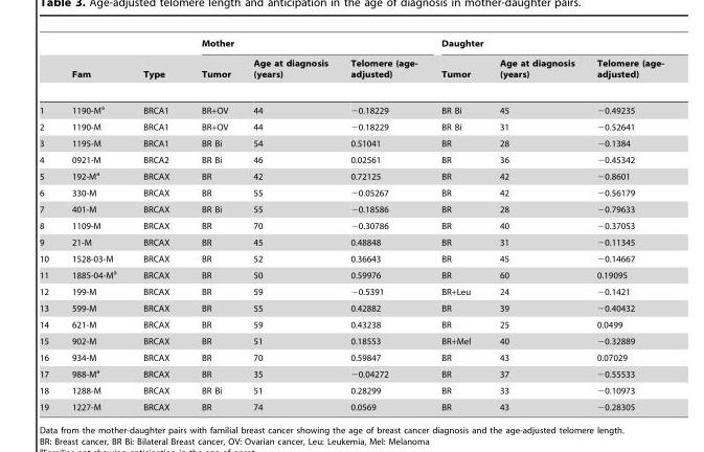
<table><thead><tr><td rowspan="2"></td><td rowspan="2">Fam</td><td rowspan="2">Type</td><td colspan="3">Mother</td><td colspan="3">Daughter</td></tr><tr><td>Tumor</td><td>Age at diagnosis (years)</td><td>Telomere (age- adjusted)</td><td>Tumor</td><td>Age at diagnosis (years)</td><td>Telomere (age- adjusted)</td></tr></thead><tbody><tr><td>1</td><td>1190-M<sup>a</sup></td><td>BRCA1</td><td>BR+OV</td><td>44</td><td>−0.18229</td><td>BR Bi</td><td>45</td><td>−0.49235</td></tr><tr><td>2</td><td>1190-M</td><td>BRCA1</td><td>BR+OV</td><td>44</td><td>−0.18229</td><td>BR Bi</td><td>31</td><td>−0.52641</td></tr><tr><td>3</td><td>1195-M</td><td>BRCA1</td><td>BR Bi</td><td>54</td><td>0.51041</td><td>BR</td><td>28</td><td>−0.1384</td></tr><tr><td>4</td><td>0921-M</td><td>BRCA2</td><td>BR Bi</td><td>46</td><td>0.02561</td><td>BR</td><td>36</td><td>−0.45342</td></tr><tr><td>5</td><td>192-M<sup>a</sup></td><td>BRCAX</td><td>BR</td><td>42</td><td>0.72125</td><td>BR</td><td>42</td><td>−0.8601</td></tr><tr><td>6</td><td>330-M</td><td>BRCAX</td><td>BR</td><td>55</td><td>−0.05267</td><td>BR</td><td>42</td><td>−0.56179</td></tr><tr><td>7</td><td>401-M</td><td>BRCAX</td><td>BR Bi</td><td>55</td><td>−0.18586</td><td>BR</td><td>28</td><td>−0.79633</td></tr><tr><td>8</td><td>1109-M</td><td>BRCAX</td><td>BR</td><td>70</td><td>−0.30786</td><td>BR</td><td>40</td><td>−0.37053</td></tr><tr><td>9</td><td>21-M</td><td>BRCAX</td><td>BR</td><td>45</td><td>0.48848</td><td>BR</td><td>31</td><td>−0.11345</td></tr><tr><td>10</td><td>1528-03-M</td><td>BRCAX</td><td>BR</td><td>52</td><td>0.36643</td><td>BR</td><td>45</td><td>−0.14667</td></tr><tr><td>11</td><td>1885-04-M<sup>a</sup></td><td>BRCAX</td><td>BR</td><td>50</td><td>0.59976</td><td>BR</td><td>60</td><td>0.19095</td></tr><tr><td>12</td><td>199-M</td><td>BRCAX</td><td>BR</td><td>59</td><td>−0.5391</td><td>BR+Leu</td><td>24</td><td>−0.1421</td></tr><tr><td>13</td><td>599-M</td><td>BRCAX</td><td>BR</td><td>55</td><td>0.42882</td><td>BR</td><td>39</td><td>−0.40432</td></tr><tr><td>14</td><td>621-M</td><td>BRCAX</td><td>BR</td><td>59</td><td>0.43238</td><td>BR</td><td>25</td><td>0.0499</td></tr><tr><td>15</td><td>902-M</td><td>BRCAX</td><td>BR</td><td>51</td><td>0.18553</td><td>BR+Mel</td><td>40</td><td>−0.32889</td></tr><tr><td>16</td><td>934-M</td><td>BRCAX</td><td>BR</td><td>70</td><td>0.59847</td><td>BR</td><td>43</td><td>0.07029</td></tr><tr><td>17</td><td>988-M<sup>a</sup></td><td>BRCAX</td><td>BR</td><td>35</td><td>−0.04272</td><td>BR</td><td>37</td><td>−0.55533</td></tr><tr><td>18</td><td>1288-M</td><td>BRCAX</td><td>BR Bi</td><td>51</td><td>0.28299</td><td>BR</td><td>33</td><td>−0.10973</td></tr><tr><td>19</td><td>1227-M</td><td>BRCAX</td><td>BR</td><td>74</td><td>0.0569</td><td>BR</td><td>43</td><td>−0.28305</td></tr></tbody></table>